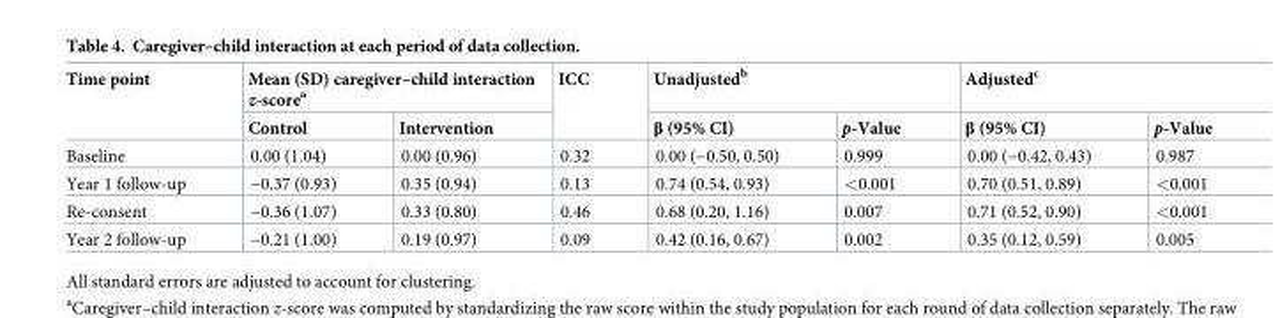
<table><thead><tr><td rowspan="2">Time point</td><td colspan="2">Mean (SD) caregiver–child interaction z-score<sup>a</sup></td><td rowspan="2">ICC</td><td colspan="2">Unadjusted<sup>b</sup></td><td colspan="2">Adjusted<sup>c</sup></td></tr><tr><td>Control</td><td>Intervention</td><td>β (95% CI)</td><td>p-Value</td><td>β (95% CI)</td><td>p-Value</td></tr></thead><tbody><tr><td>Baseline</td><td>0.00 (1.04)</td><td>0.00 (0.96)</td><td>0.32</td><td>0.00 (−0.50, 0.50)</td><td>0.999</td><td>0.00 (−0.42, 0.43)</td><td>0.987</td></tr><tr><td>Year 1 follow-up</td><td>−0.37 (0.93)</td><td>0.35 (0.94)</td><td>0.13</td><td>0.74 (0.54, 0.93)</td><td>&lt;0.001</td><td>0.70 (0.51, 0.89)</td><td>&lt;0.001</td></tr><tr><td>Re-consent</td><td>−0.36 (1.07)</td><td>0.33 (0.80)</td><td>0.46</td><td>0.68 (0.20, 1.16)</td><td>0.007</td><td>0.71 (0.52, 0.90)</td><td>&lt;0.001</td></tr><tr><td>Year 2 follow-up</td><td>−0.21 (1.00)</td><td>0.19 (0.97)</td><td>0.09</td><td>0.42 (0.16, 0.67)</td><td>0.002</td><td>0.35 (0.12, 0.59)</td><td>0.005</td></tr></tbody></table>